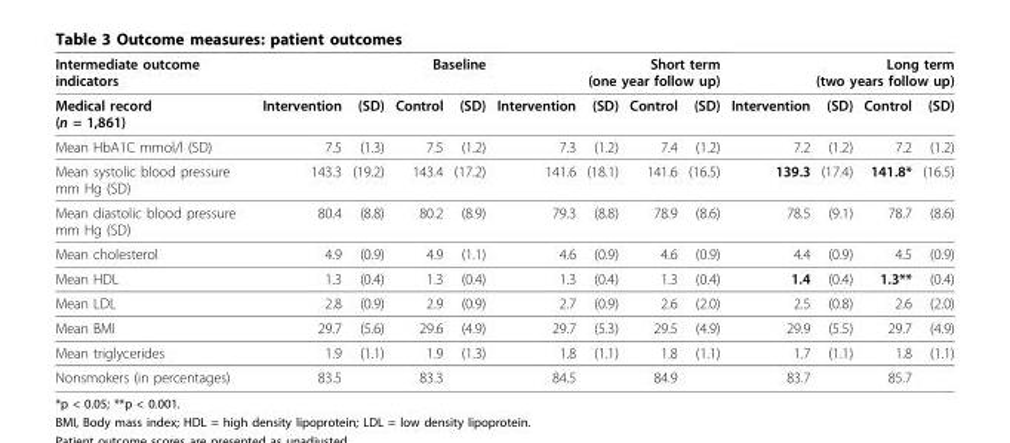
<table><thead><tr><td rowspan="2">Intermediate outcome indicators Medical record (n = 1,861)</td><td colspan="4">Baseline</td><td colspan="4">Short term (one year follow up)</td><td colspan="4">Long term (two years follow up)</td></tr><tr><td>Intervention</td><td>(SD)</td><td>Control</td><td>(SD)</td><td>Intervention</td><td>(SD)</td><td>Control</td><td>(SD)</td><td>Intervention</td><td>(SD)</td><td>Control</td><td>(SD)</td></tr></thead><tbody><tr><td>Mean HbA1C mmol/l (SD)</td><td>7.5</td><td>(1.3)</td><td>7.5</td><td>(1.2)</td><td>7.3</td><td>(1.2)</td><td>7.4</td><td>(1.2)</td><td>7.2</td><td>(1.2)</td><td>7.2</td><td>(1.2)</td></tr><tr><td>Mean systolic blood pressure mm Hg (SD)</td><td>143.3</td><td>(19.2)</td><td>143.4</td><td>(17.2)</td><td>141.6</td><td>(18.1)</td><td>141.6</td><td>(16.5)</td><td>139.3</td><td>(17.4)</td><td>141.8*</td><td>(16.5)</td></tr><tr><td>Mean diastolic blood pressure mm Hg (SD)</td><td>80.4</td><td>(8.8)</td><td>80.2</td><td>(8.9)</td><td>79.3</td><td>(8.8)</td><td>78.9</td><td>(8.6)</td><td>78.5</td><td>(9.1)</td><td>78.7</td><td>(8.6)</td></tr><tr><td>Mean cholesterol</td><td>4.9</td><td>(0.9)</td><td>4.9</td><td>(1.1)</td><td>4.6</td><td>(0.9)</td><td>4.6</td><td>(0.9)</td><td>4.4</td><td>(0.9)</td><td>4.5</td><td>(0.9)</td></tr><tr><td>Mean HDL</td><td>1.3</td><td>(0.4)</td><td>1.3</td><td>(0.4)</td><td>1.3</td><td>(0.4)</td><td>1.3</td><td>(0.4)</td><td>1.4</td><td>(0.4)</td><td>1.3**</td><td>(0.4)</td></tr><tr><td>Mean LDL</td><td>2.8</td><td>(0.9)</td><td>2.9</td><td>(0.9)</td><td>2.7</td><td>(0.9)</td><td>2.6</td><td>(2.0)</td><td>2.5</td><td>(0.8)</td><td>2.6</td><td>(2.0)</td></tr><tr><td>Mean BMI</td><td>29.7</td><td>(5.6)</td><td>29.6</td><td>(4.9)</td><td>29.7</td><td>(5.3)</td><td>29.5</td><td>(4.9)</td><td>29.9</td><td>(5.5)</td><td>29.7</td><td>(4.9)</td></tr><tr><td>Mean triglycerides</td><td>1.9</td><td>(1.1)</td><td>1.9</td><td>(1.3)</td><td>1.8</td><td>(1.1)</td><td>1.8</td><td>(1.1)</td><td>1.7</td><td>(1.1)</td><td>1.8</td><td>(1.1)</td></tr><tr><td>Nonsmokers (in percentages)</td><td>83.5</td><td></td><td>83.3</td><td></td><td>84.5</td><td></td><td>84.9</td><td></td><td>83.7</td><td></td><td>85.7</td><td></td></tr></tbody></table>